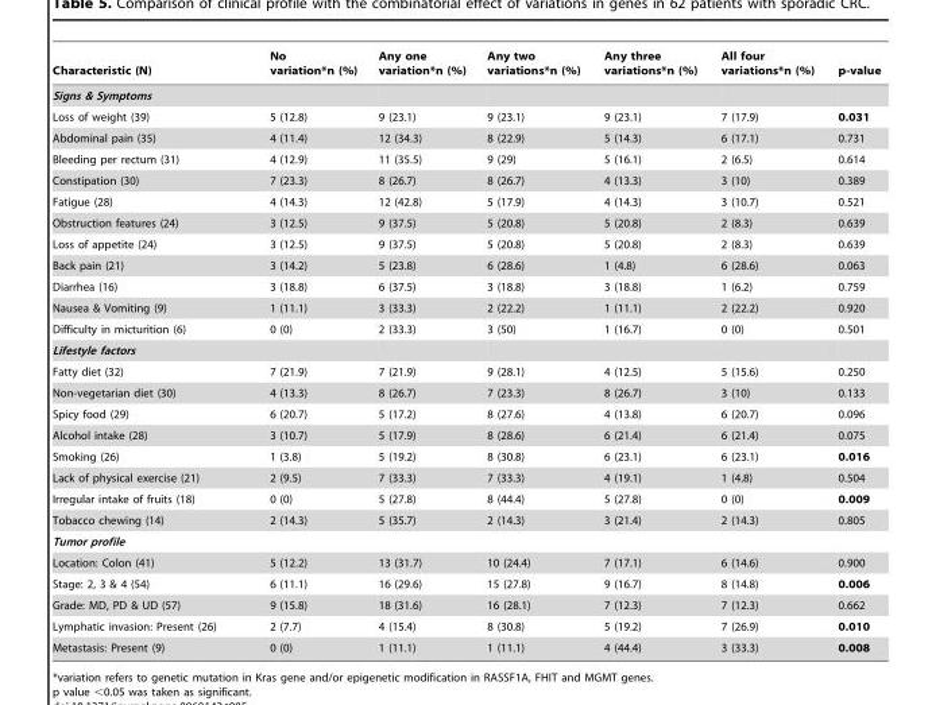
<table><thead><tr><td>Characteristic (N)</td><td>No variation*n (%)</td><td>Any one variation*n (%)</td><td>Any two variations*n (%)</td><td>Any three variations*n (%)</td><td>All four variations*n (%)</td><td>p-value</td></tr></thead><tbody><tr><td colspan="7">Signs &amp; Symptoms</td></tr><tr><td>Loss of weight (39)</td><td>5 (12.8)</td><td>9 (23.1)</td><td>9 (23.1)</td><td>9 (23.1)</td><td>7 (17.9)</td><td>0.031</td></tr><tr><td>Abdominal pain (35)</td><td>4 (11.4)</td><td>12 (34.3)</td><td>8 (22.9)</td><td>5 (14.3)</td><td>6 (17.1)</td><td>0.731</td></tr><tr><td>Bleeding per rectum (31)</td><td>4 (12.9)</td><td>11 (35.5)</td><td>9 (29)</td><td>5 (16.1)</td><td>2 (6.5)</td><td>0.614</td></tr><tr><td>Constipation (30)</td><td>7 (23.3)</td><td>8 (26.7)</td><td>8 (26.7)</td><td>4 (13.3)</td><td>3 (10)</td><td>0.389</td></tr><tr><td>Fatigue (28)</td><td>4 (14.3)</td><td>12 (42.8)</td><td>5 (17.9)</td><td>4 (14.3)</td><td>3 (10.7)</td><td>0.521</td></tr><tr><td>Obstruction features (24)</td><td>3 (12.5)</td><td>9 (37.5)</td><td>5 (20.8)</td><td>5 (20.8)</td><td>2 (8.3)</td><td>0.639</td></tr><tr><td>Loss of appetite (24)</td><td>3 (12.5)</td><td>9 (37.5)</td><td>5 (20.8)</td><td>5 (20.8)</td><td>2 (8.3)</td><td>0.639</td></tr><tr><td>Back pain (21)</td><td>3 (14.2)</td><td>5 (23.8)</td><td>6 (28.6)</td><td>1 (4.8)</td><td>6 (28.6)</td><td>0.063</td></tr><tr><td>Diarrhea (16)</td><td>3 (18.8)</td><td>6 (37.5)</td><td>3 (18.8)</td><td>3 (18.8)</td><td>1 (6.2)</td><td>0.759</td></tr><tr><td>Nausea &amp; Vomiting (9)</td><td>1 (11.1)</td><td>3 (33.3)</td><td>2 (22.2)</td><td>1 (11.1)</td><td>2 (22.2)</td><td>0.920</td></tr><tr><td>Difficulty in micturition (6)</td><td>0 (0)</td><td>2 (33.3)</td><td>3 (50)</td><td>1 (16.7)</td><td>0 (0)</td><td>0.501</td></tr><tr><td colspan="7">Lifestyle factors</td></tr><tr><td>Fatty diet (32)</td><td>7 (21.9)</td><td>7 (21.9)</td><td>9 (28.1)</td><td>4 (12.5)</td><td>5 (15.6)</td><td>0.250</td></tr><tr><td>Non-vegetarian diet (30)</td><td>4 (13.3)</td><td>8 (26.7)</td><td>7 (23.3)</td><td>8 (26.7)</td><td>3 (10)</td><td>0.133</td></tr><tr><td>Spicy food (29)</td><td>6 (20.7)</td><td>5 (17.2)</td><td>8 (27.6)</td><td>4 (13.8)</td><td>6 (20.7)</td><td>0.096</td></tr><tr><td>Alcohol intake (28)</td><td>3 (10.7)</td><td>5 (17.9)</td><td>8 (28.6)</td><td>6 (21.4)</td><td>6 (21.4)</td><td>0.075</td></tr><tr><td>Smoking (26)</td><td>1 (3.8)</td><td>5 (19.2)</td><td>8 (30.8)</td><td>6 (23.1)</td><td>6 (23.1)</td><td>0.016</td></tr><tr><td>Lack of physical exercise (21)</td><td>2 (9.5)</td><td>7 (33.3)</td><td>7 (33.3)</td><td>4 (19.1)</td><td>1 (4.8)</td><td>0.504</td></tr><tr><td>Irregular intake of fruits (18)</td><td>0 (0)</td><td>5 (27.8)</td><td>8 (44.4)</td><td>5 (27.8)</td><td>0 (0)</td><td>0.009</td></tr><tr><td>Tobacco chewing (14)</td><td>2 (14.3)</td><td>5 (35.7)</td><td>2 (14.3)</td><td>3 (21.4)</td><td>2 (14.3)</td><td>0.805</td></tr><tr><td colspan="7">Tumor profile</td></tr><tr><td>Location: Colon (41)</td><td>5 (12.2)</td><td>13 (31.7)</td><td>10 (24.4)</td><td>7 (17.1)</td><td>6 (14.6)</td><td>0.900</td></tr><tr><td>Stage: 2, 3 &amp; 4 (54)</td><td>6 (11.1)</td><td>16 (29.6)</td><td>15 (27.8)</td><td>9 (16.7)</td><td>8 (14.8)</td><td>0.006</td></tr><tr><td>Grade: MD, PD &amp; UD (57)</td><td>9 (15.8)</td><td>18 (31.6)</td><td>16 (28.1)</td><td>7 (12.3)</td><td>7 (12.3)</td><td>0.662</td></tr><tr><td>Lymphatic invasion: Present (26)</td><td>2 (7.7)</td><td>4 (15.4)</td><td>8 (30.8)</td><td>5 (19.2)</td><td>7 (26.9)</td><td>0.010</td></tr><tr><td>Metastasis: Present (9)</td><td>0 (0)</td><td>1 (11.1)</td><td>1 (11.1)</td><td>4 (44.4)</td><td>3 (33.3)</td><td>0.008</td></tr></tbody></table>